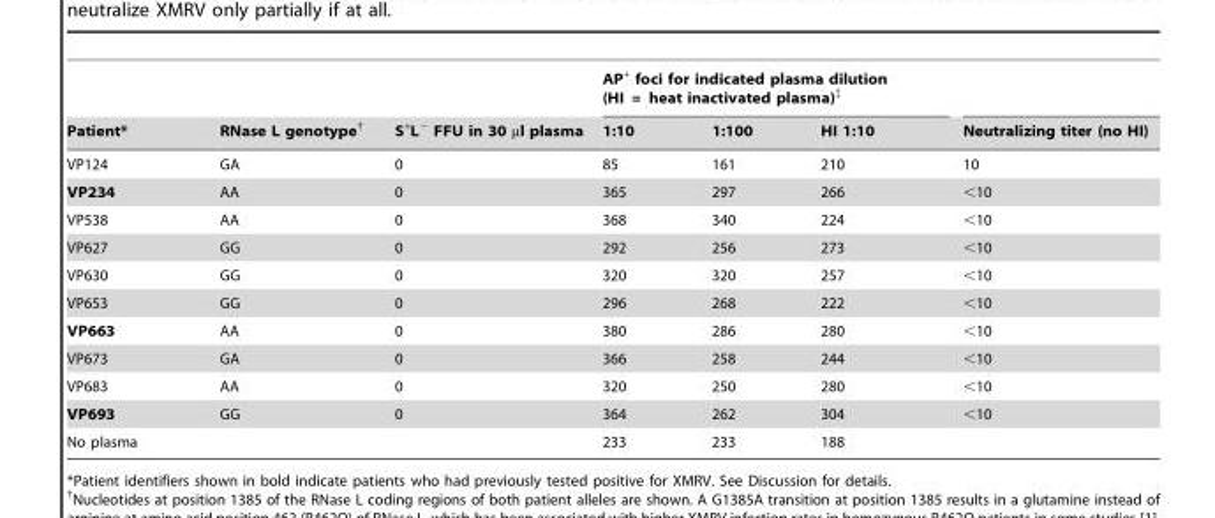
<table><thead><tr><td rowspan="2">Patient*</td><td rowspan="2">RNase L genotype†</td><td rowspan="2">S<sup>+</sup>L<sup>−</sup> FFU in 30 µl plasma</td><td colspan="3">AP<sup>+</sup> foci for indicated plasma dilution (HI = heat inactivated plasma)‡</td><td rowspan="2">Neutralizing titer (no HI)</td></tr><tr><td>1:10</td><td>1:100</td><td>HI 1:10</td></tr></thead><tbody><tr><td>VP124</td><td>GA</td><td>0</td><td>85</td><td>161</td><td>210</td><td>10</td></tr><tr><td>VP234</td><td>AA</td><td>0</td><td>365</td><td>297</td><td>266</td><td>&lt;10</td></tr><tr><td>VP538</td><td>AA</td><td>0</td><td>368</td><td>340</td><td>224</td><td>&lt;10</td></tr><tr><td>VP627</td><td>GG</td><td>0</td><td>292</td><td>256</td><td>273</td><td>&lt;10</td></tr><tr><td>VP630</td><td>GG</td><td>0</td><td>320</td><td>320</td><td>257</td><td>&lt;10</td></tr><tr><td>VP653</td><td>GG</td><td>0</td><td>296</td><td>268</td><td>222</td><td>&lt;10</td></tr><tr><td>VP663</td><td>AA</td><td>0</td><td>380</td><td>286</td><td>280</td><td>&lt;10</td></tr><tr><td>VP673</td><td>GA</td><td>0</td><td>366</td><td>258</td><td>244</td><td>&lt;10</td></tr><tr><td>VP683</td><td>AA</td><td>0</td><td>320</td><td>250</td><td>280</td><td>&lt;10</td></tr><tr><td>VP693</td><td>GG</td><td>0</td><td>364</td><td>262</td><td>304</td><td>&lt;10</td></tr><tr><td>No plasma</td><td></td><td></td><td>233</td><td>233</td><td>188</td><td></td></tr></tbody></table>